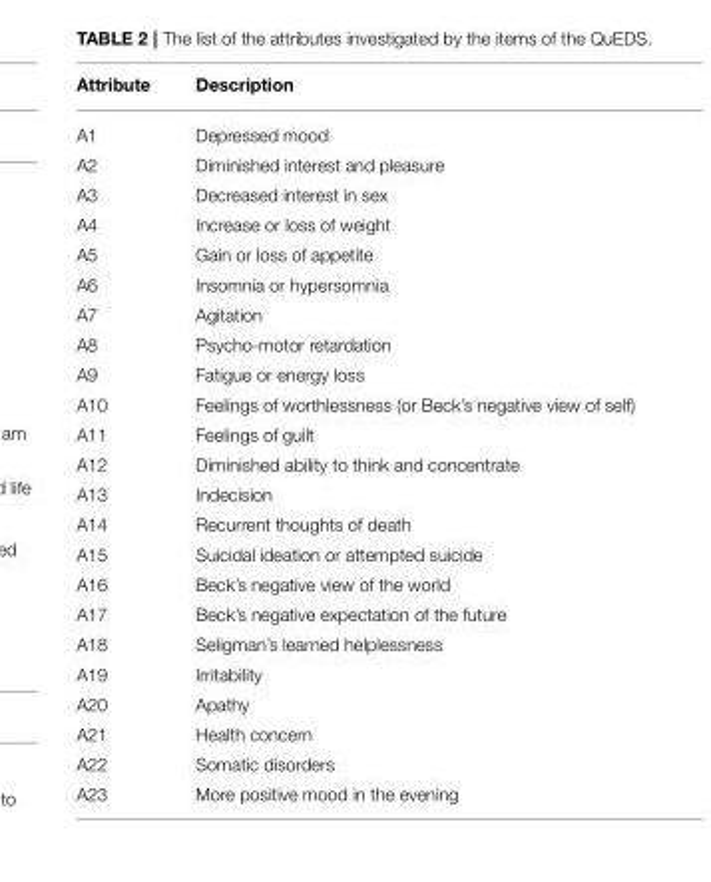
<table><thead><tr><td>Attribute</td><td>Description</td></tr></thead><tbody><tr><td>A1</td><td>Depressed mood</td></tr><tr><td>A2</td><td>Diminished interest and pleasure</td></tr><tr><td>A3</td><td>Decreased interest in sex</td></tr><tr><td>A4</td><td>Increase or loss of weight</td></tr><tr><td>A5</td><td>Gain or loss of appetite</td></tr><tr><td>A6</td><td>Insomnia or hypersomnia</td></tr><tr><td>A7</td><td>Agitation</td></tr><tr><td>A8</td><td>Psycho-motor retardation</td></tr><tr><td>A9</td><td>Fatigue or energy loss</td></tr><tr><td>A10</td><td>Feelings of worthlessness (or Beck’s negative view of self)</td></tr><tr><td>A11</td><td>Feelings of guilt</td></tr><tr><td>A12</td><td>Diminished ability to think and concentrate</td></tr><tr><td>A13</td><td>Indecision</td></tr><tr><td>A14</td><td>Recurrent thoughts of death</td></tr><tr><td>A15</td><td>Suicidal ideation or attempted suicide</td></tr><tr><td>A16</td><td>Beck’s negative view of the world</td></tr><tr><td>A17</td><td>Beck’s negative expectation of the future</td></tr><tr><td>A18</td><td>Seligman’s learned helplessness</td></tr><tr><td>A19</td><td>Irritability</td></tr><tr><td>A20</td><td>Apathy</td></tr><tr><td>A21</td><td>Health concern</td></tr><tr><td>A22</td><td>Somatic disorders</td></tr><tr><td>A23</td><td>More positive mood in the evening</td></tr></tbody></table>